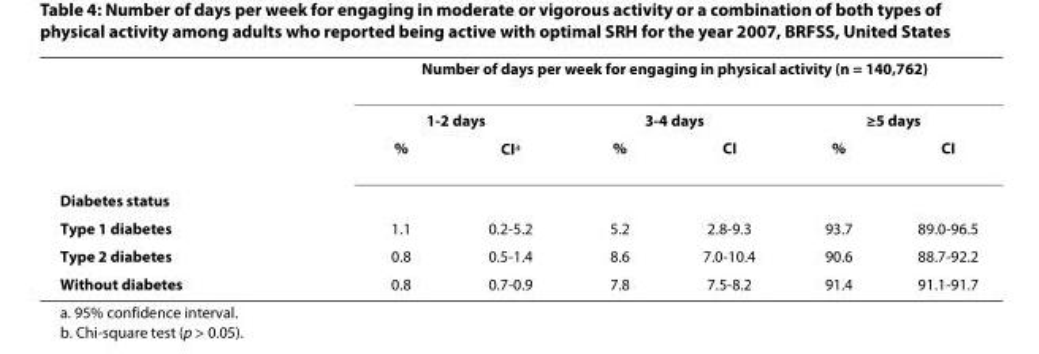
<table><thead><tr><td rowspan="3"></td><td colspan="6">Number of days per week for engaging in physical activity (n = 140,762)</td></tr><tr><td colspan="2">1-2 days</td><td colspan="2">3-4 days</td><td colspan="2">≥5 days</td></tr><tr><td>%</td><td>CI<sup>a</sup></td><td>%</td><td>CI</td><td>%</td><td>CI</td></tr></thead><tbody><tr><td colspan="7">Diabetes status</td></tr><tr><td>Type 1 diabetes</td><td>1.1</td><td>0.2-5.2</td><td>5.2</td><td>2.8-9.3</td><td>93.7</td><td>89.0-96.5</td></tr><tr><td>Type 2 diabetes</td><td>0.8</td><td>0.5-1.4</td><td>8.6</td><td>7.0-10.4</td><td>90.6</td><td>88.7-92.2</td></tr><tr><td>Without diabetes</td><td>0.8</td><td>0.7-0.9</td><td>7.8</td><td>7.5-8.2</td><td>91.4</td><td>91.1-91.7</td></tr></tbody></table>